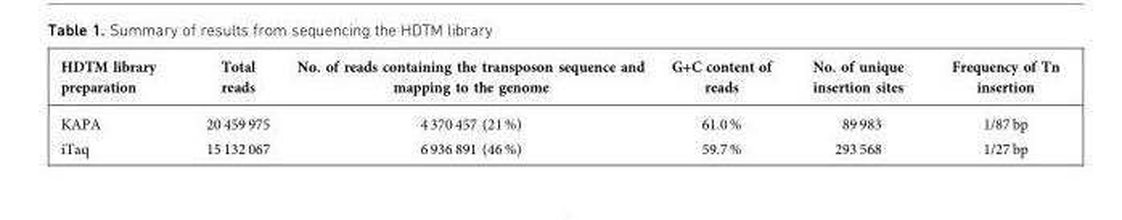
<table><thead><tr><td>HDTM library preparation</td><td>Total reads</td><td>No. of reads containing the transposon sequence and mapping to the genome</td><td>G+C content of reads</td><td>No. of unique insertion sites</td><td>Frequency of Tn insertion</td></tr></thead><tbody><tr><td>KAPA</td><td>20 459 975</td><td>4 370 457 (21 %)</td><td>61.0 %</td><td>89 983</td><td>1/87 bp</td></tr><tr><td>iTaq</td><td>15 132 067</td><td>6 936 891 (46 %)</td><td>59.7 %</td><td>293 568</td><td>1/27 bp</td></tr></tbody></table>